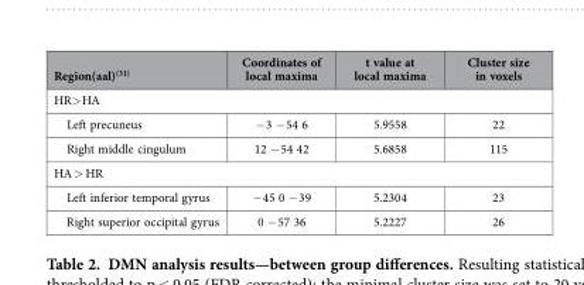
<table><thead><tr><td>Region(aal)<sup>(31)</sup></td><td>Coordinates of local maxima</td><td>t value at local maxima</td><td>Cluster size in voxels</td></tr></thead><tbody><tr><td colspan="4">HR&gt; HA</td></tr><tr><td>Left precuneus</td><td>− 3 − 54 6</td><td>5.9558</td><td>22</td></tr><tr><td>Right middle cingulum</td><td>12 − 54 42</td><td>5.6858</td><td>115</td></tr><tr><td colspan="4">HA &gt; HR</td></tr><tr><td>Left inferior temporal gyrus</td><td>− 45 0 − 39</td><td>5.2304</td><td>23</td></tr><tr><td>Right superior occipital gyrus</td><td>0 − 57 36</td><td>5.2227</td><td>26</td></tr></tbody></table>